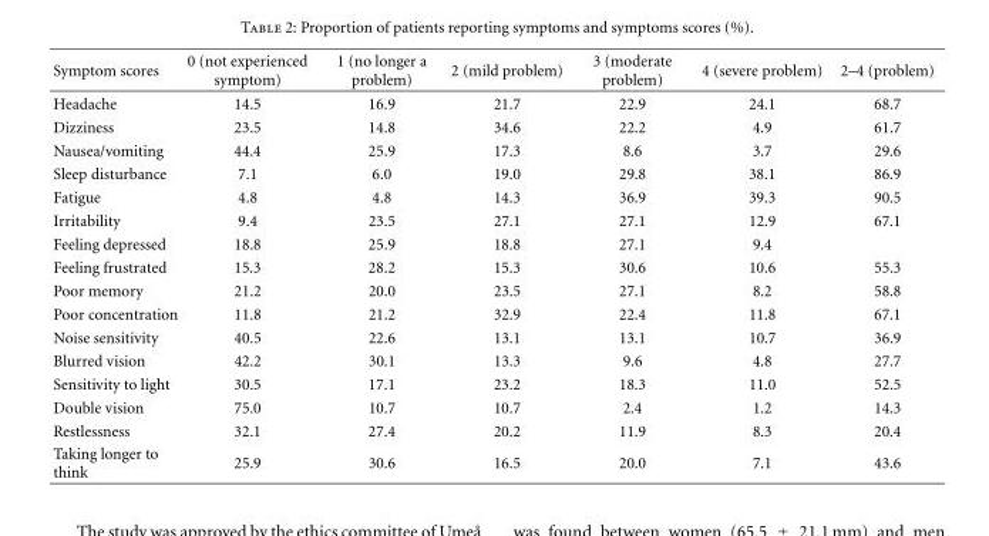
<table><thead><tr><td>Symptom scores</td><td>0 (not experienced symptom)</td><td>1 (no longer a problem)</td><td>2 (mild problem)</td><td>3 (moderate problem)</td><td>4 (severe problem)</td><td>2–4 (problem)</td></tr></thead><tbody><tr><td>Headache</td><td>14.5</td><td>16.9</td><td>21.7</td><td>22.9</td><td>24.1</td><td>68.7</td></tr><tr><td>Dizziness</td><td>23.5</td><td>14.8</td><td>34.6</td><td>22.2</td><td>4.9</td><td>61.7</td></tr><tr><td>Nausea/vomiting</td><td>44.4</td><td>25.9</td><td>17.3</td><td>8.6</td><td>3.7</td><td>29.6</td></tr><tr><td>Sleep disturbance</td><td>7.1</td><td>6.0</td><td>19.0</td><td>29.8</td><td>38.1</td><td>86.9</td></tr><tr><td>Fatigue</td><td>4.8</td><td>4.8</td><td>14.3</td><td>36.9</td><td>39.3</td><td>90.5</td></tr><tr><td>Irritability</td><td>9.4</td><td>23.5</td><td>27.1</td><td>27.1</td><td>12.9</td><td>67.1</td></tr><tr><td>Feeling depressed</td><td>18.8</td><td>25.9</td><td>18.8</td><td>27.1</td><td>9.4</td><td></td></tr><tr><td>Feeling frustrated</td><td>15.3</td><td>28.2</td><td>15.3</td><td>30.6</td><td>10.6</td><td>55.3</td></tr><tr><td>Poor memory</td><td>21.2</td><td>20.0</td><td>23.5</td><td>27.1</td><td>8.2</td><td>58.8</td></tr><tr><td>Poor concentration</td><td>11.8</td><td>21.2</td><td>32.9</td><td>22.4</td><td>11.8</td><td>67.1</td></tr><tr><td>Noise sensitivity</td><td>40.5</td><td>22.6</td><td>13.1</td><td>13.1</td><td>10.7</td><td>36.9</td></tr><tr><td>Blurred vision</td><td>42.2</td><td>30.1</td><td>13.3</td><td>9.6</td><td>4.8</td><td>27.7</td></tr><tr><td>Sensitivity to light</td><td>30.5</td><td>17.1</td><td>23.2</td><td>18.3</td><td>11.0</td><td>52.5</td></tr><tr><td>Double vision</td><td>75.0</td><td>10.7</td><td>10.7</td><td>2.4</td><td>1.2</td><td>14.3</td></tr><tr><td>Restlessness</td><td>32.1</td><td>27.4</td><td>20.2</td><td>11.9</td><td>8.3</td><td>20.4</td></tr><tr><td>Taking longer to think</td><td>25.9</td><td>30.6</td><td>16.5</td><td>20.0</td><td>7.1</td><td>43.6</td></tr></tbody></table>